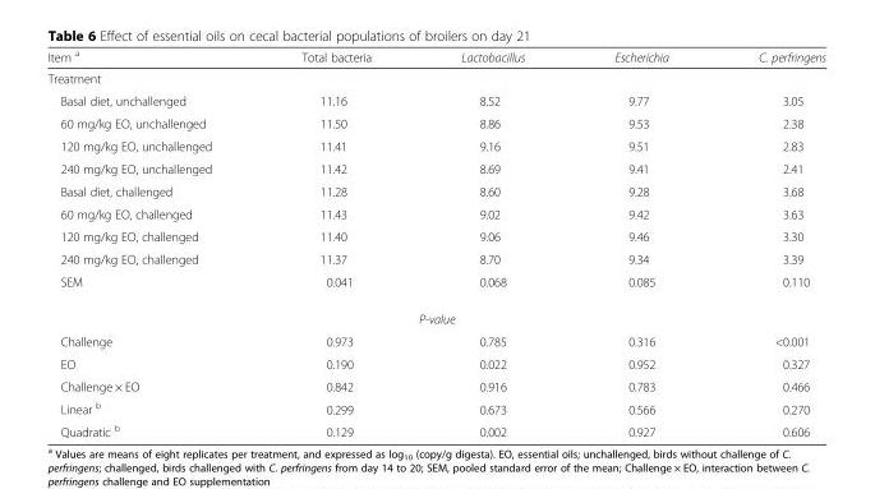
<table><thead><tr><td>Item <sup>a</sup></td><td>Total bacteria</td><td>Lactobacillus</td><td>Escherichia</td><td>C. perfringens</td></tr></thead><tbody><tr><td colspan="5">Treatment</td></tr><tr><td>Basal diet, unchallenged</td><td>11.16</td><td>8.52</td><td>9.77</td><td>3.05</td></tr><tr><td>60 mg/kg EO, unchallenged</td><td>11.50</td><td>8.86</td><td>9.53</td><td>2.38</td></tr><tr><td>120 mg/kg EO, unchallenged</td><td>11.41</td><td>9.16</td><td>9.51</td><td>2.83</td></tr><tr><td>240 mg/kg EO, unchallenged</td><td>11.42</td><td>8.69</td><td>9.41</td><td>2.41</td></tr><tr><td>Basal diet, challenged</td><td>11.28</td><td>8.60</td><td>9.28</td><td>3.68</td></tr><tr><td>60 mg/kg EO, challenged</td><td>11.43</td><td>9.02</td><td>9.42</td><td>3.63</td></tr><tr><td>120 mg/kg EO, challenged</td><td>11.40</td><td>9.06</td><td>9.46</td><td>3.30</td></tr><tr><td>240 mg/kg EO, challenged</td><td>11.37</td><td>8.70</td><td>9.34</td><td>3.39</td></tr><tr><td>SEM</td><td>0.041</td><td>0.068</td><td>0.085</td><td>0.110</td></tr><tr><td colspan="5">P-value</td></tr><tr><td>Challenge</td><td>0.973</td><td>0.785</td><td>0.316</td><td>&lt;0.001</td></tr><tr><td>EO</td><td>0.190</td><td>0.022</td><td>0.952</td><td>0.327</td></tr><tr><td>Challenge × EO</td><td>0.842</td><td>0.916</td><td>0.783</td><td>0.466</td></tr><tr><td>Linear <sup>b</sup></td><td>0.299</td><td>0.673</td><td>0.566</td><td>0.270</td></tr><tr><td>Quadratic <sup>b</sup></td><td>0.129</td><td>0.002</td><td>0.927</td><td>0.606</td></tr></tbody></table>